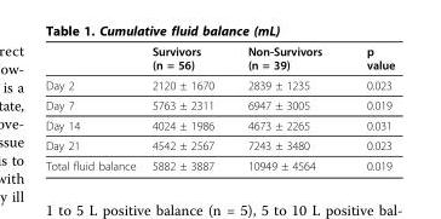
<table><thead><tr><td></td><td>Survivors (n = 56)</td><td>Non-Survivors (n = 39)</td><td>p value</td></tr></thead><tbody><tr><td>Day 2</td><td>2120 ± 1670</td><td>2839 ± 1235</td><td>0.023</td></tr><tr><td>Day 7</td><td>5763 ± 2311</td><td>6947 ± 3005</td><td>0.019</td></tr><tr><td>Day 14</td><td>4024 ± 1986</td><td>4673 ± 2265</td><td>0.031</td></tr><tr><td>Day 21</td><td>4542 ± 2567</td><td>7243 ± 3480</td><td>0.023</td></tr><tr><td>Total fluid balance</td><td>5882 ± 3887</td><td>10949 ± 4564</td><td>0.019</td></tr></tbody></table>